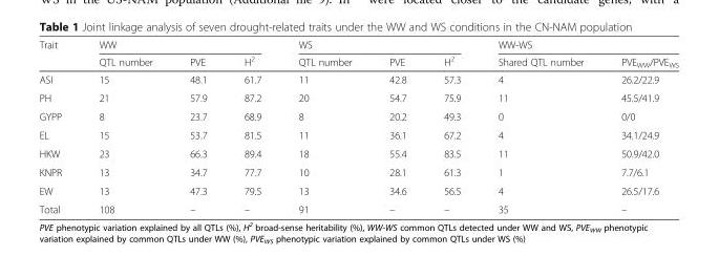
<table><thead><tr><td rowspan="2">Trait</td><td colspan="3">WW</td><td colspan="3">WS</td><td colspan="2">WW-WS</td></tr><tr><td>QTL number</td><td>PVE</td><td>H<sup>2</sup></td><td>QTL number</td><td>PVE</td><td>H<sup>2</sup></td><td>Shared QTL number</td><td>PVE<sub>WW</sub>/PVE<sub>WS</sub></td></tr></thead><tbody><tr><td>ASI</td><td>15</td><td>48.1</td><td>61.7</td><td>11</td><td>42.8</td><td>57.3</td><td>4</td><td>26.2/22.9</td></tr><tr><td>PH</td><td>21</td><td>57.9</td><td>87.2</td><td>20</td><td>54.7</td><td>75.9</td><td>11</td><td>45.5/41.9</td></tr><tr><td>GYPP</td><td>8</td><td>23.7</td><td>68.9</td><td>8</td><td>20.2</td><td>49.3</td><td>0</td><td>0/0</td></tr><tr><td>EL</td><td>15</td><td>53.7</td><td>81.5</td><td>11</td><td>36.1</td><td>67.2</td><td>4</td><td>34.1/24.9</td></tr><tr><td>HKW</td><td>23</td><td>66.3</td><td>89.4</td><td>18</td><td>55.4</td><td>83.5</td><td>11</td><td>50.9/42.0</td></tr><tr><td>KNPR</td><td>13</td><td>34.7</td><td>77.7</td><td>10</td><td>28.1</td><td>61.3</td><td>1</td><td>7.7/6.1</td></tr><tr><td>EW</td><td>13</td><td>47.3</td><td>79.5</td><td>13</td><td>34.6</td><td>56.5</td><td>4</td><td>26.5/17.6</td></tr><tr><td>Total</td><td>108</td><td>–</td><td>–</td><td>91</td><td>–</td><td>–</td><td>35</td><td>–</td></tr></tbody></table>